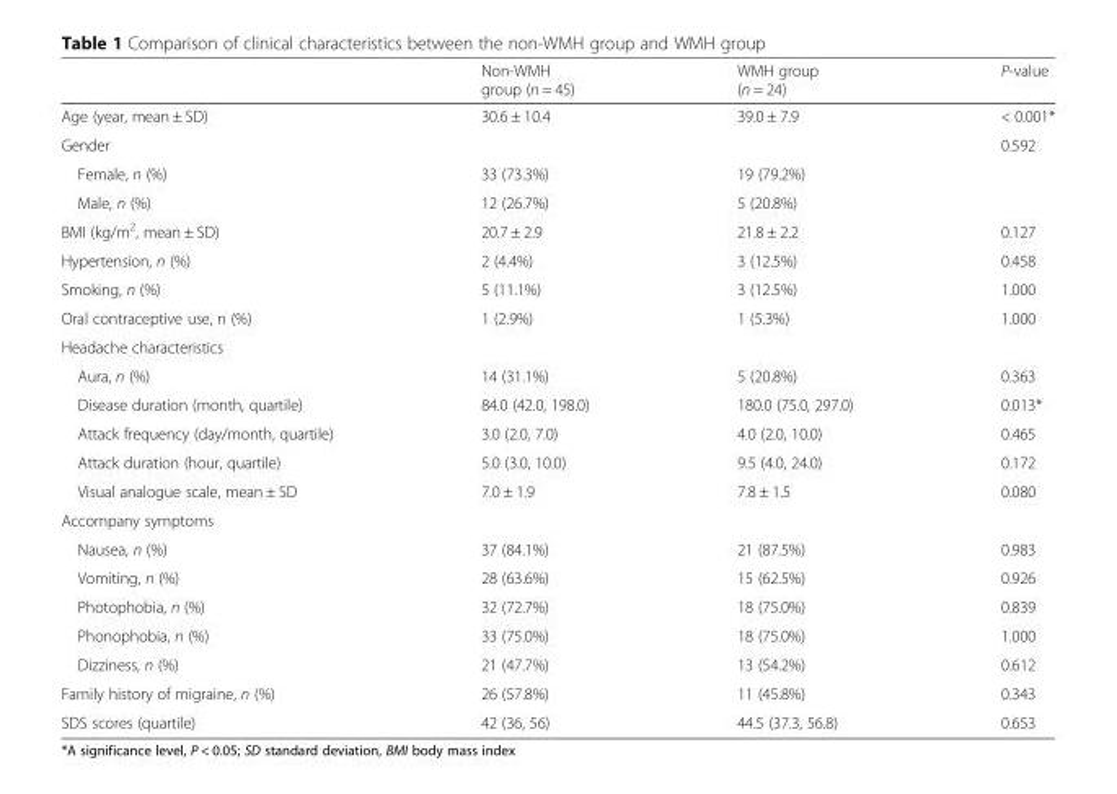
<table><thead><tr><td></td><td>Non-WMH group (n = 45)</td><td>WMH group (n = 24)</td><td>P-value</td></tr></thead><tbody><tr><td>Age (year, mean ± SD)</td><td>30.6 ± 10.4</td><td>39.0 ± 7.9</td><td>&lt; 0.001*</td></tr><tr><td>Gender</td><td></td><td></td><td>0.592</td></tr><tr><td>Female, n (%)</td><td>33 (73.3%)</td><td>19 (79.2%)</td><td></td></tr><tr><td>Male, n (%)</td><td>12 (26.7%)</td><td>5 (20.8%)</td><td></td></tr><tr><td>BMI (kg/m<sup>2</sup>, mean ± SD)</td><td>20.7 ± 2.9</td><td>21.8 ± 2.2</td><td>0.127</td></tr><tr><td>Hypertension, n (%)</td><td>2 (4.4%)</td><td>3 (12.5%)</td><td>0.458</td></tr><tr><td>Smoking, n (%)</td><td>5 (11.1%)</td><td>3 (12.5%)</td><td>1.000</td></tr><tr><td>Oral contraceptive use, n (%)</td><td>1 (2.9%)</td><td>1 (5.3%)</td><td>1.000</td></tr><tr><td colspan="4">Headache characteristics</td></tr><tr><td>Aura, n (%)</td><td>14 (31.1%)</td><td>5 (20.8%)</td><td>0.363</td></tr><tr><td>Disease duration (month, quartile)</td><td>84.0 (42.0, 198.0)</td><td>180.0 (75.0, 297.0)</td><td>0.013*</td></tr><tr><td>Attack frequency (day/month, quartile)</td><td>3.0 (2.0, 7.0)</td><td>4.0 (2.0, 10.0)</td><td>0.465</td></tr><tr><td>Attack duration (hour, quartile)</td><td>5.0 (3.0, 10.0)</td><td>9.5 (4.0, 24.0)</td><td>0.172</td></tr><tr><td>Visual analogue scale, mean ± SD</td><td>7.0 ± 1.9</td><td>7.8 ± 1.5</td><td>0.080</td></tr><tr><td colspan="4">Accompany symptoms</td></tr><tr><td>Nausea, n (%)</td><td>37 (84.1%)</td><td>21 (87.5%)</td><td>0.983</td></tr><tr><td>Vomiting, n (%)</td><td>28 (63.6%)</td><td>15 (62.5%)</td><td>0.926</td></tr><tr><td>Photophobia, n (%)</td><td>32 (72.7%)</td><td>18 (75.0%)</td><td>0.839</td></tr><tr><td>Phonophobia, n (%)</td><td>33 (75.0%)</td><td>18 (75.0%)</td><td>1.000</td></tr><tr><td>Dizziness, n (%)</td><td>21 (47.7%)</td><td>13 (54.2%)</td><td>0.612</td></tr><tr><td>Family history of migraine, n (%)</td><td>26 (57.8%)</td><td>11 (45.8%)</td><td>0.343</td></tr><tr><td>SDS scores (quartile)</td><td>42 (36, 56)</td><td>44.5 (37.3, 56.8)</td><td>0.653</td></tr></tbody></table>